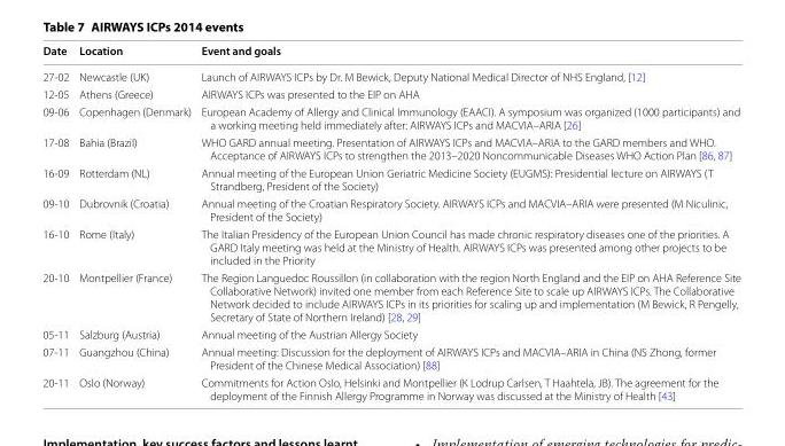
<table><thead><tr><td>Date</td><td>Location</td><td>Event and goals</td></tr></thead><tbody><tr><td>27‑02</td><td>Newcastle (UK)</td><td>Launch of AIRWAYS ICPs by Dr. M Bewick, Deputy National Medical Director of NHS England, [12]</td></tr><tr><td>12‑05</td><td>Athens (Greece)</td><td>AIRWAYS ICPs was presented to the EIP on AHA</td></tr><tr><td>09‑06</td><td>Copenhagen (Denmark)</td><td>European Academy of Allergy and Clinical Immunology (EAACI). A symposium was organized (1000 participants) and a working meeting held immediately after: AIRWAYS ICPs and MACVIA–ARIA [26]</td></tr><tr><td>17‑08</td><td>Bahia (Brazil)</td><td>WHO GARD annual meeting. Presentation of AIRWAYS ICPs and MACVIA–ARIA to the GARD members and WHO. Acceptance of AIRWAYS ICPs to strengthen the 2013–2020 Noncommunicable Diseases WHO Action Plan [86, 87]</td></tr><tr><td>16‑09</td><td>Rotterdam (NL)</td><td>Annual meeting of the European Union Geriatric Medicine Society (EUGMS): Presidential lecture on AIRWAYS (T Strandberg, President of the Society)</td></tr><tr><td>09‑10</td><td>Dubrovnik (Croatia)</td><td>Annual meeting of the Croatian Respiratory Society. AIRWAYS ICPs and MACVIA–ARIA were presented (M Niculinic, President of the Society)</td></tr><tr><td>16‑10</td><td>Rome (Italy)</td><td>The Italian Presidency of the European Union Council has made chronic respiratory diseases one of the priorities. A GARD Italy meeting was held at the Ministry of Health. AIRWAYS ICPs was presented among other projects to be included in the Priority</td></tr><tr><td>20‑10</td><td>Montpellier (France)</td><td>The Region Languedoc Roussillon (in collaboration with the region North England and the EIP on AHA Reference Site Collaborative Network) invited one member from each Reference Site to scale up AIRWAYS ICPs. The Collaborative Network decided to include AIRWAYS ICPs in its priorities for scaling up and implementation (M Bewick, R Pengelly, Secretary of State of Northern Ireland) [28, 29]</td></tr><tr><td>05‑11</td><td>Salzburg (Austria)</td><td>Annual meeting of the Austrian Allergy Society</td></tr><tr><td>07‑11</td><td>Guangzhou (China)</td><td>Annual meeting: Discussion for the deployment of AIRWAYS ICPs and MACVIA–ARIA in China (NS Zhong, former President of the Chinese Medical Association) [88]</td></tr><tr><td>20‑11</td><td>Oslo (Norway)</td><td>Commitments for Action Oslo, Helsinki and Montpellier (K Lodrup Carlsen, T Haahtela, JB). The agreement for the deployment of the Finnish Allergy Programme in Norway was discussed at the Ministry of Health [43]</td></tr></tbody></table>